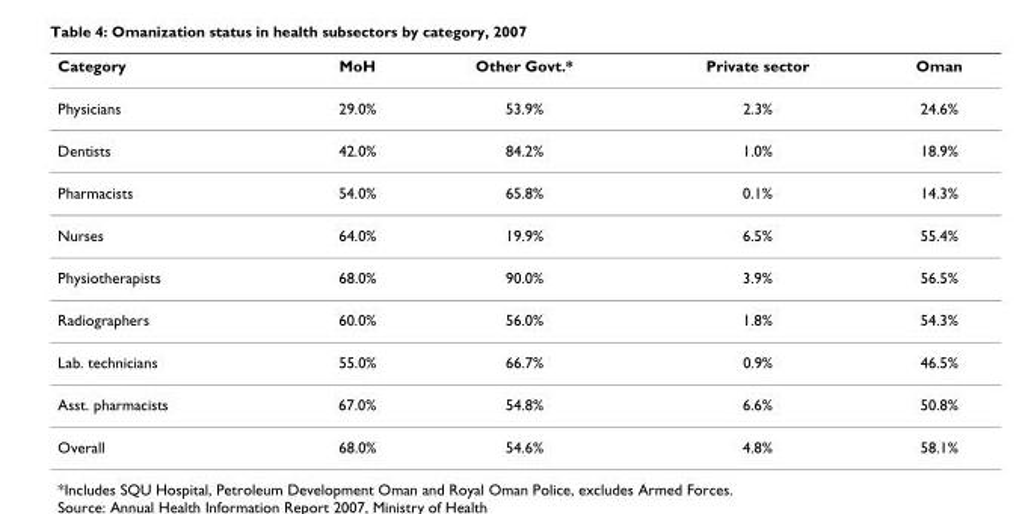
<table><thead><tr><td>Category</td><td>MoH</td><td>Other Govt.*</td><td>Private sector</td><td>Oman</td></tr></thead><tbody><tr><td>Physicians</td><td>29.0%</td><td>53.9%</td><td>2.3%</td><td>24.6%</td></tr><tr><td>Dentists</td><td>42.0%</td><td>84.2%</td><td>1.0%</td><td>18.9%</td></tr><tr><td>Pharmacists</td><td>54.0%</td><td>65.8%</td><td>0.1%</td><td>14.3%</td></tr><tr><td>Nurses</td><td>64.0%</td><td>19.9%</td><td>6.5%</td><td>55.4%</td></tr><tr><td>Physiotherapists</td><td>68.0%</td><td>90.0%</td><td>3.9%</td><td>56.5%</td></tr><tr><td>Radiographers</td><td>60.0%</td><td>56.0%</td><td>1.8%</td><td>54.3%</td></tr><tr><td>Lab. technicians</td><td>55.0%</td><td>66.7%</td><td>0.9%</td><td>46.5%</td></tr><tr><td>Asst. pharmacists</td><td>67.0%</td><td>54.8%</td><td>6.6%</td><td>50.8%</td></tr><tr><td>Overall</td><td>68.0%</td><td>54.6%</td><td>4.8%</td><td>58.1%</td></tr></tbody></table>